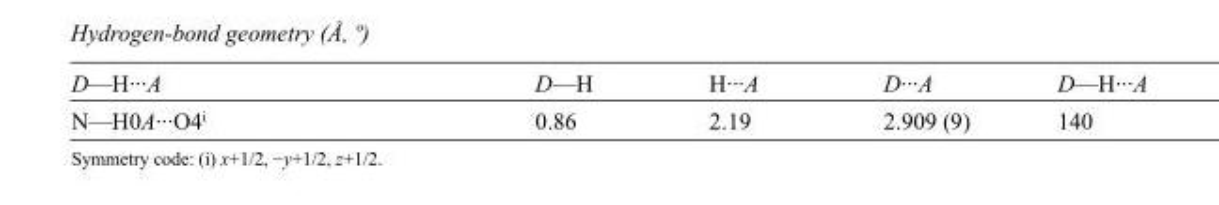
<table><tbody><tr><td>D—H···A</td><td>D—H</td><td>H···A</td><td>D···A</td><td>D—H···A</td></tr><tr><td>N—H0A···O4<sup>i</sup></td><td>0.86</td><td>2.19</td><td>2.909 (9)</td><td>140</td></tr></tbody></table>